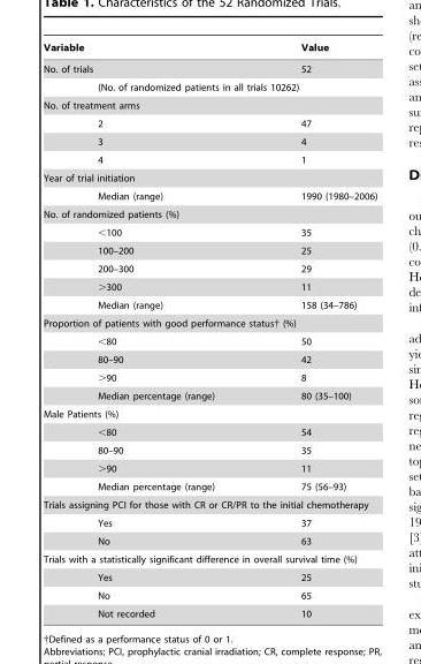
<table><thead><tr><td>Variable</td><td></td><td>Value</td></tr></thead><tbody><tr><td colspan="2">No. of trials</td><td>52</td></tr><tr><td></td><td colspan="2">(No. of randomized patients in all trials 10262)</td></tr><tr><td colspan="3">No. of treatment arms</td></tr><tr><td></td><td>2</td><td>47</td></tr><tr><td></td><td>3</td><td>4</td></tr><tr><td></td><td>4</td><td>1</td></tr><tr><td colspan="3">Year of trial initiation</td></tr><tr><td></td><td>Median (range)</td><td>1990 (1980–2006)</td></tr><tr><td colspan="3">No. of randomized patients (%)</td></tr><tr><td></td><td>&lt;100</td><td>35</td></tr><tr><td></td><td>100–200</td><td>25</td></tr><tr><td></td><td>200–300</td><td>29</td></tr><tr><td></td><td>&gt;300</td><td>11</td></tr><tr><td></td><td>Median (range)</td><td>158 (34–786)</td></tr><tr><td colspan="3">Proportion of patients with good performance status† (%)</td></tr><tr><td></td><td>&lt;80</td><td>50</td></tr><tr><td></td><td>80–90</td><td>42</td></tr><tr><td></td><td>&gt;90</td><td>8</td></tr><tr><td></td><td>Median percentage (range)</td><td>80 (35–100)</td></tr><tr><td colspan="3">Male Patients (%)</td></tr><tr><td></td><td>&lt;80</td><td>54</td></tr><tr><td></td><td>80–90</td><td>35</td></tr><tr><td></td><td>&gt;90</td><td>11</td></tr><tr><td></td><td>Median percentage (range)</td><td>75 (56–93)</td></tr><tr><td colspan="3">Trials assigning PCI for those with CR or CR/PR to the initial chemotherapy</td></tr><tr><td></td><td>Yes</td><td>37</td></tr><tr><td></td><td>No</td><td>63</td></tr><tr><td colspan="3">Trials with a statistically significant difference in overall survival time (%)</td></tr><tr><td></td><td>Yes</td><td>25</td></tr><tr><td></td><td>No</td><td>65</td></tr><tr><td></td><td>Not recorded</td><td>10</td></tr></tbody></table>